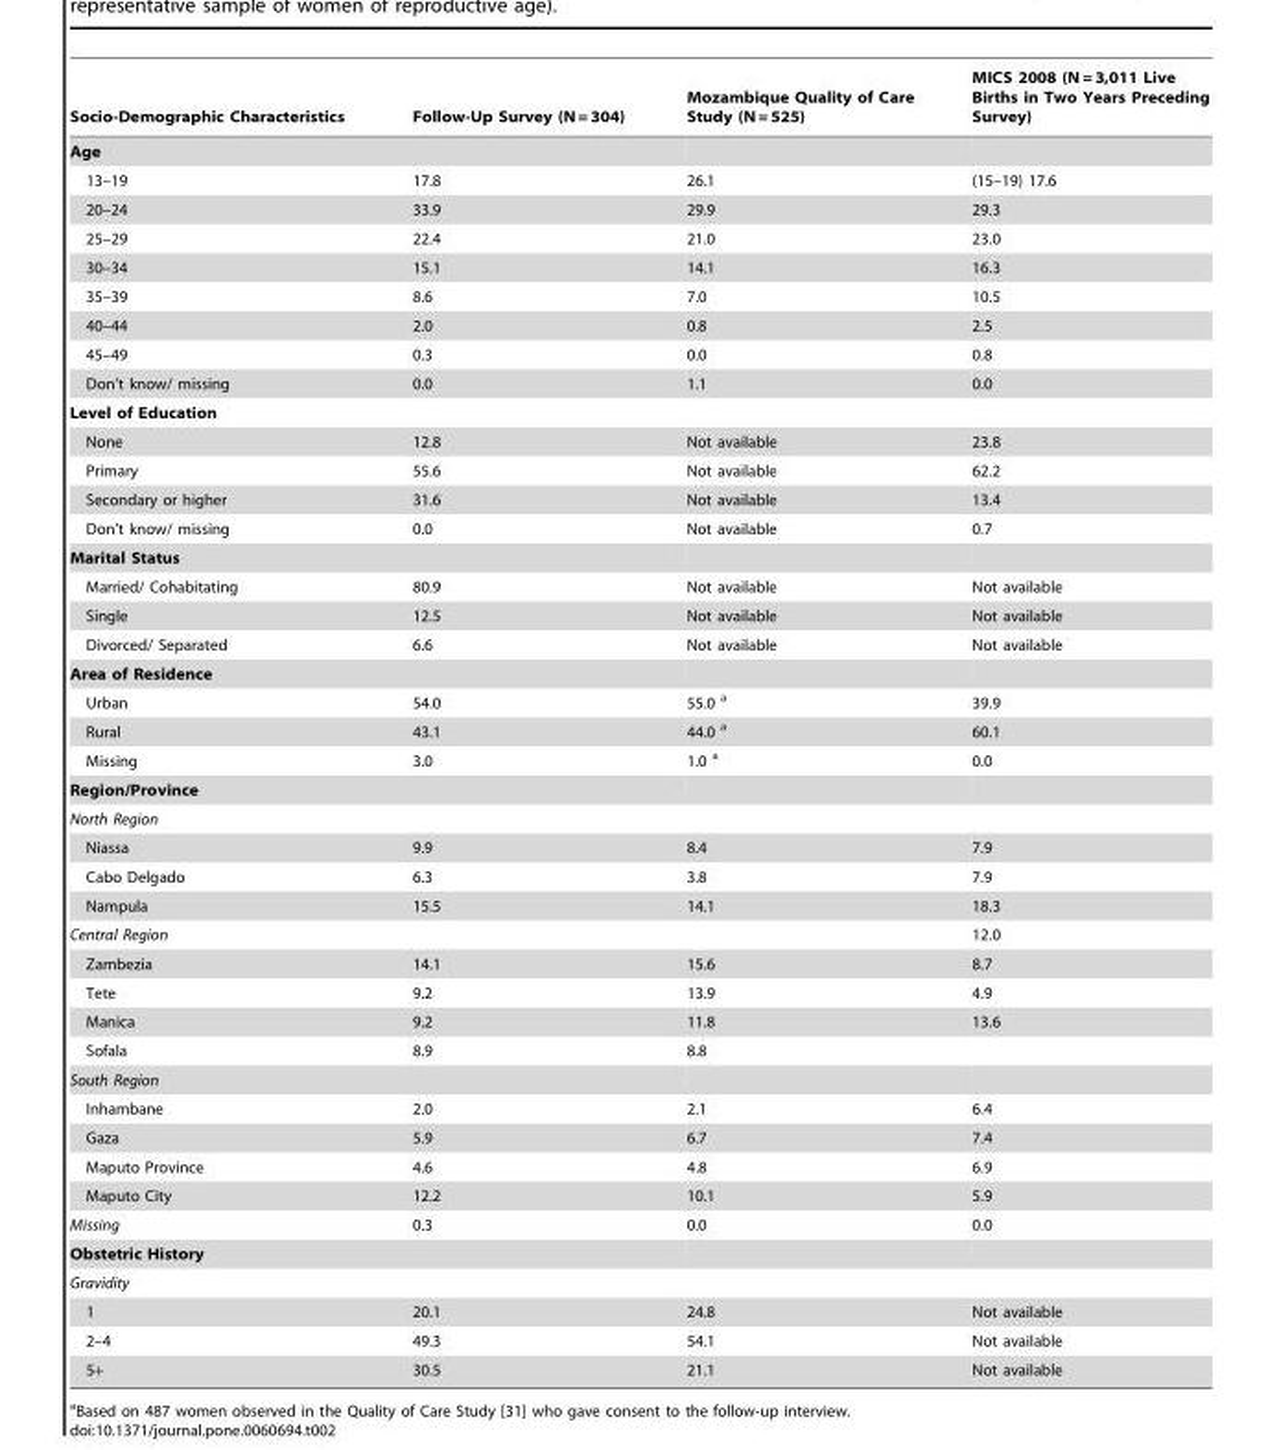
<table><thead><tr><td>Socio-Demographic Characteristics</td><td>Follow-Up Survey (N = 304)</td><td>Mozambique Quality of Care Study (N = 525)</td><td>MICS 2008 (N = 3,011 Live Births in Two Years Preceding Survey)</td></tr></thead><tbody><tr><td colspan="4">Age</td></tr><tr><td>13–19</td><td>17.8</td><td>26.1</td><td>(15–19) 17.6</td></tr><tr><td>20–24</td><td>33.9</td><td>29.9</td><td>29.3</td></tr><tr><td>25–29</td><td>22.4</td><td>21.0</td><td>23.0</td></tr><tr><td>30–34</td><td>15.1</td><td>14.1</td><td>16.3</td></tr><tr><td>35–39</td><td>8.6</td><td>7.0</td><td>10.5</td></tr><tr><td>40–44</td><td>2.0</td><td>0.8</td><td>2.5</td></tr><tr><td>45–49</td><td>0.3</td><td>0.0</td><td>0.8</td></tr><tr><td>Don’t know/ missing</td><td>0.0</td><td>1.1</td><td>0.0</td></tr><tr><td colspan="4">Level of Education</td></tr><tr><td>None</td><td>12.8</td><td>Not available</td><td>23.8</td></tr><tr><td>Primary</td><td>55.6</td><td>Not available</td><td>62.2</td></tr><tr><td>Secondary or higher</td><td>31.6</td><td>Not available</td><td>13.4</td></tr><tr><td>Don’t know/ missing</td><td>0.0</td><td>Not available</td><td>0.7</td></tr><tr><td colspan="4">Marital Status</td></tr><tr><td>Married/ Cohabitating</td><td>80.9</td><td>Not available</td><td>Not available</td></tr><tr><td>Single</td><td>12.5</td><td>Not available</td><td>Not available</td></tr><tr><td>Divorced/ Separated</td><td>6.6</td><td>Not available</td><td>Not available</td></tr><tr><td colspan="4">Area of Residence</td></tr><tr><td>Urban</td><td>54.0</td><td>55.0 a</td><td>39.9</td></tr><tr><td>Rural</td><td>43.1</td><td>44.0 a</td><td>60.1</td></tr><tr><td>Missing</td><td>3.0</td><td>1.0 a</td><td>0.0</td></tr><tr><td colspan="4">Region/Province</td></tr><tr><td colspan="4">North Region</td></tr><tr><td>Niassa</td><td>9.9</td><td>8.4</td><td>7.9</td></tr><tr><td>Cabo Delgado</td><td>6.3</td><td>3.8</td><td>7.9</td></tr><tr><td>Nampula</td><td>15.5</td><td>14.1</td><td>18.3</td></tr><tr><td>Central Region</td><td></td><td></td><td>12.0</td></tr><tr><td>Zambezia</td><td>14.1</td><td>15.6</td><td>8.7</td></tr><tr><td>Tete</td><td>9.2</td><td>13.9</td><td>4.9</td></tr><tr><td>Manica</td><td>9.2</td><td>11.8</td><td>13.6</td></tr><tr><td>Sofala</td><td>8.9</td><td>8.8</td><td></td></tr><tr><td colspan="4">South Region</td></tr><tr><td>Inhambane</td><td>2.0</td><td>2.1</td><td>6.4</td></tr><tr><td>Gaza</td><td>5.9</td><td>6.7</td><td>7.4</td></tr><tr><td>Maputo Province</td><td>4.6</td><td>4.8</td><td>6.9</td></tr><tr><td>Maputo City</td><td>12.2</td><td>10.1</td><td>5.9</td></tr><tr><td>Missing</td><td>0.3</td><td>0.0</td><td>0.0</td></tr><tr><td colspan="4">Obstetric History</td></tr><tr><td colspan="4">Gravidity</td></tr><tr><td>1</td><td>20.1</td><td>24.8</td><td>Not available</td></tr><tr><td>2–4</td><td>49.3</td><td>54.1</td><td>Not available</td></tr><tr><td>5+</td><td>30.5</td><td>21.1</td><td>Not available</td></tr></tbody></table>